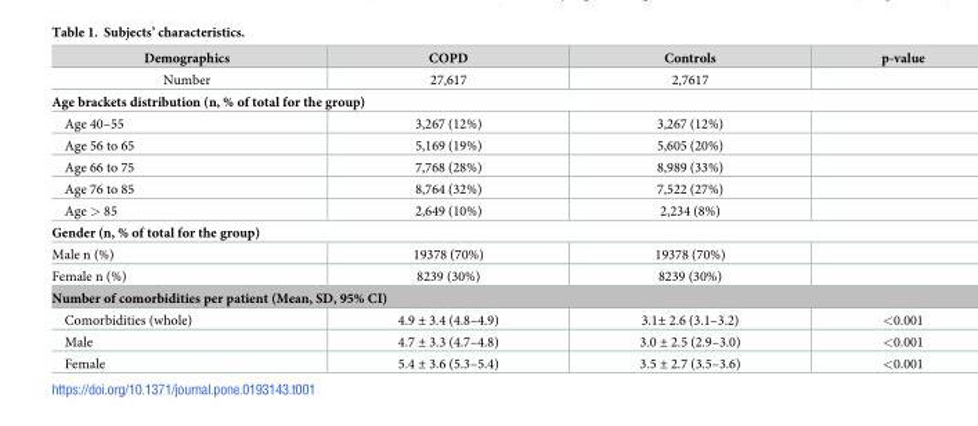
<table><thead><tr><td>Demographics</td><td>COPD</td><td>Controls</td><td>p-value</td></tr></thead><tbody><tr><td>Number</td><td>27,617</td><td>2,7617</td><td></td></tr><tr><td colspan="4">Age brackets distribution (n, % of total for the group)</td></tr><tr><td>Age 40–55</td><td>3,267 (12%)</td><td>3,267 (12%)</td><td></td></tr><tr><td>Age 56 to 65</td><td>5,169 (19%)</td><td>5,605 (20%)</td><td></td></tr><tr><td>Age 66 to 75</td><td>7,768 (28%)</td><td>8,989 (33%)</td><td></td></tr><tr><td>Age 76 to 85</td><td>8,764 (32%)</td><td>7,522 (27%)</td><td></td></tr><tr><td>Age &gt; 85</td><td>2,649 (10%)</td><td>2,234 (8%)</td><td></td></tr><tr><td colspan="4">Gender (n, % of total for the group)</td></tr><tr><td>Male n (%)</td><td>19378 (70%)</td><td>19378 (70%)</td><td></td></tr><tr><td>Female n (%)</td><td>8239 (30%)</td><td>8239 (30%)</td><td></td></tr><tr><td colspan="4">Number of comorbidities per patient (Mean, SD, 95% CI)</td></tr><tr><td>Comorbidities (whole)</td><td>4.9 ± 3.4 (4.8–4.9)</td><td>3.1± 2.6 (3.1–3.2)</td><td>&lt;0.001</td></tr><tr><td>Male</td><td>4.7 ± 3.3 (4.7–4.8)</td><td>3.0 ± 2.5 (2.9–3.0)</td><td>&lt;0.001</td></tr><tr><td>Female</td><td>5.4 ± 3.6 (5.3–5.4)</td><td>3.5 ± 2.7 (3.5–3.6)</td><td>&lt;0.001</td></tr></tbody></table>